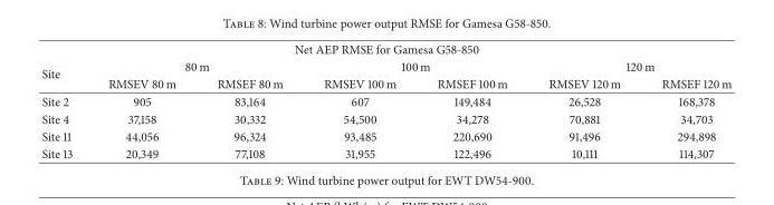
<table><thead><tr><td colspan="7">Net AEP RMSE for Gamesa G58-850</td></tr><tr><td rowspan="2">Site</td><td colspan="2">80 m</td><td colspan="2">100 m</td><td colspan="2">120 m</td></tr><tr><td>RMSEV 80 m</td><td>RMSEF 80 m</td><td>RMSEV 100 m</td><td>RMSEF 100 m</td><td>RMSEV 120 m</td><td>RMSEF 120 m</td></tr></thead><tbody><tr><td>Site 2</td><td>905</td><td>83,164</td><td>607</td><td>149,484</td><td>26,528</td><td>168,378</td></tr><tr><td>Site 4</td><td>37,158</td><td>30,332</td><td>54,500</td><td>34,278</td><td>70,881</td><td>34,703</td></tr><tr><td>Site 11</td><td>44,056</td><td>96,324</td><td>93,485</td><td>220,690</td><td>91,496</td><td>294,898</td></tr><tr><td>Site 13</td><td>20,349</td><td>77,108</td><td>31,955</td><td>122,496</td><td>10,111</td><td>114,307</td></tr></tbody></table>